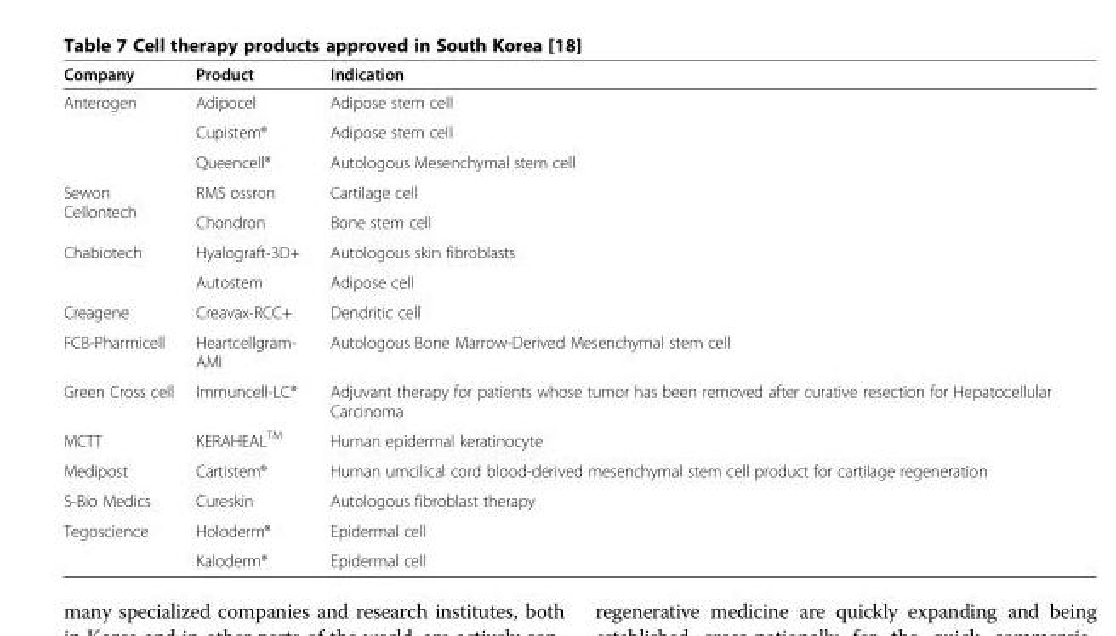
<table><thead><tr><td>Company</td><td>Product</td><td>Indication</td></tr></thead><tbody><tr><td rowspan="3">Anterogen</td><td>Adipocel</td><td>Adipose stem cell</td></tr><tr><td>Cupistem®</td><td>Adipose stem cell</td></tr><tr><td>Queencell®</td><td>Autologous Mesenchymal stem cell</td></tr><tr><td rowspan="2">Sewon Cellontech</td><td>RMS ossron</td><td>Cartilage cell</td></tr><tr><td>Chondron</td><td>Bone stem cell</td></tr><tr><td rowspan="2">Chabiotech</td><td>Hyalograft-3D+</td><td>Autologous skin fibroblasts</td></tr><tr><td>Autostem</td><td>Adipose cell</td></tr><tr><td>Creagene</td><td>Creavax-RCC+</td><td>Dendritic cell</td></tr><tr><td>FCB-Pharmicell</td><td>Heartcellgram- AMI</td><td>Autologous Bone Marrow-Derived Mesenchymal stem cell</td></tr><tr><td>Green Cross cell</td><td>Immuncell-LC®</td><td>Adjuvant therapy for patients whose tumor has been removed after curative resection for Hepatocellular Carcinoma</td></tr><tr><td>MCTT</td><td>KERAHEAL<sup>TM</sup></td><td>Human epidermal keratinocyte</td></tr><tr><td>Medipost</td><td>Cartistem®</td><td>Human umcilical cord blood-derived mesenchymal stem cell product for cartilage regeneration</td></tr><tr><td>S-Bio Medics</td><td>Cureskin</td><td>Autologous fibroblast therapy</td></tr><tr><td rowspan="2">Tegoscience</td><td>Holoderm®</td><td>Epidermal cell</td></tr><tr><td>Kaloderm®</td><td>Epidermal cell</td></tr></tbody></table>